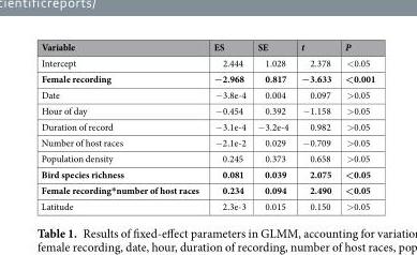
<table><thead><tr><td>Variable</td><td>ES</td><td>SE</td><td>t</td><td>P</td></tr></thead><tbody><tr><td>Intercept</td><td>2.444</td><td>1.028</td><td>2.378</td><td>&lt;0.05</td></tr><tr><td>Female recording</td><td>−2.968</td><td>0.817</td><td>−3.633</td><td>&lt;0.001</td></tr><tr><td>Date</td><td>−3.8e-4</td><td>0.004</td><td>0.097</td><td>&gt;0.05</td></tr><tr><td>Hour of day</td><td>−0.454</td><td>0.392</td><td>−1.158</td><td>&gt;0.05</td></tr><tr><td>Duration of record</td><td>−3.1e-4</td><td>−3.2e-4</td><td>0.982</td><td>&gt;0.05</td></tr><tr><td>Number of host races</td><td>−2.1e-2</td><td>0.029</td><td>−0.709</td><td>&gt;0.05</td></tr><tr><td>Population density</td><td>0.245</td><td>0.373</td><td>0.658</td><td>&gt;0.05</td></tr><tr><td>Bird species richness</td><td>0.081</td><td>0.039</td><td>2.075</td><td>&lt;0.05</td></tr><tr><td>Female recording*number of host races</td><td>0.234</td><td>0.094</td><td>2.490</td><td>&lt;0.05</td></tr><tr><td>Latitude</td><td>2.3e-3</td><td>0.015</td><td>0.150</td><td>&gt;0.05</td></tr></tbody></table>